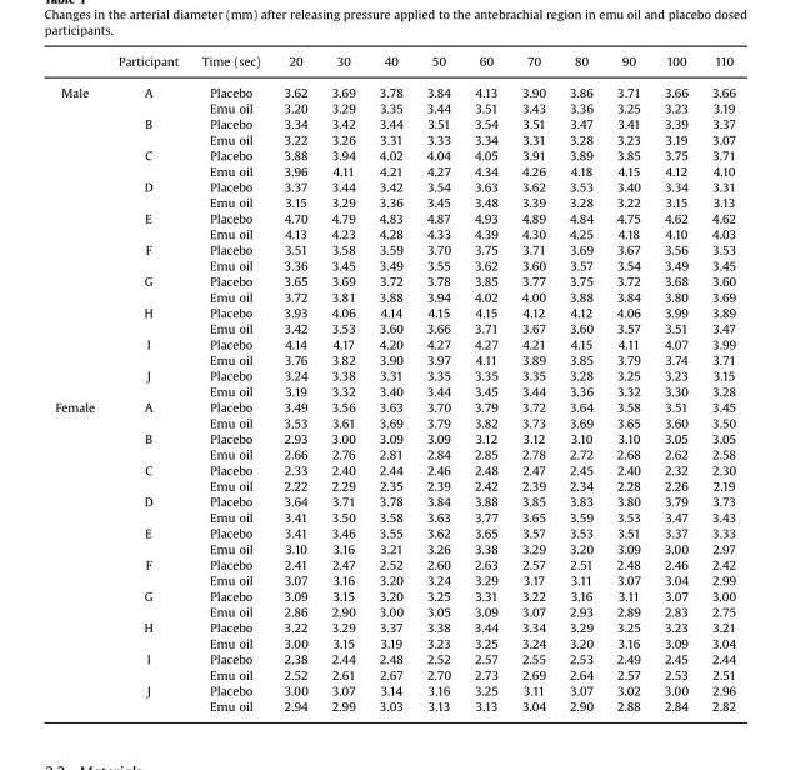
<table><thead><tr><td></td><td>Participant</td><td>Time (sec)</td><td>20</td><td>30</td><td>40</td><td>50</td><td>60</td><td>70</td><td>80</td><td>90</td><td>100</td><td>110</td></tr></thead><tbody><tr><td rowspan="20">Male</td><td rowspan="2">A</td><td>Placebo</td><td>3.62</td><td>3.69</td><td>3.78</td><td>3.84</td><td>4.13</td><td>3.90</td><td>3.86</td><td>3.71</td><td>3.66</td><td>3.66</td></tr><tr><td>Emu oil</td><td>3.20</td><td>3.29</td><td>3.35</td><td>3.44</td><td>3.51</td><td>3.43</td><td>3.36</td><td>3.25</td><td>3.23</td><td>3.19</td></tr><tr><td rowspan="2">B</td><td>Placebo</td><td>3.34</td><td>3.42</td><td>3.44</td><td>3.51</td><td>3.54</td><td>3.51</td><td>3.47</td><td>3.41</td><td>3.39</td><td>3.37</td></tr><tr><td>Emu oil</td><td>3.22</td><td>3.26</td><td>3.31</td><td>3.33</td><td>3.34</td><td>3.31</td><td>3.28</td><td>3.23</td><td>3.19</td><td>3.07</td></tr><tr><td rowspan="2">C</td><td>Placebo</td><td>3.88</td><td>3.94</td><td>4.02</td><td>4.04</td><td>4.05</td><td>3.91</td><td>3.89</td><td>3.85</td><td>3.75</td><td>3.71</td></tr><tr><td>Emu oil</td><td>3.96</td><td>4.11</td><td>4.21</td><td>4.27</td><td>4.34</td><td>4.26</td><td>4.18</td><td>4.15</td><td>4.12</td><td>4.10</td></tr><tr><td rowspan="2">D</td><td>Placebo</td><td>3.37</td><td>3.44</td><td>3.42</td><td>3.54</td><td>3.63</td><td>3.62</td><td>3.53</td><td>3.40</td><td>3.34</td><td>3.31</td></tr><tr><td>Emu oil</td><td>3.15</td><td>3.29</td><td>3.36</td><td>3.45</td><td>3.48</td><td>3.39</td><td>3.28</td><td>3.22</td><td>3.15</td><td>3.13</td></tr><tr><td rowspan="2">E</td><td>Placebo</td><td>4.70</td><td>4.79</td><td>4.83</td><td>4.87</td><td>4.93</td><td>4.89</td><td>4.84</td><td>4.75</td><td>4.62</td><td>4.62</td></tr><tr><td>Emu oil</td><td>4.13</td><td>4.23</td><td>4.28</td><td>4.33</td><td>4.39</td><td>4.30</td><td>4.25</td><td>4.18</td><td>4.10</td><td>4.03</td></tr><tr><td rowspan="2">F</td><td>Placebo</td><td>3.51</td><td>3.58</td><td>3.59</td><td>3.70</td><td>3.75</td><td>3.71</td><td>3.69</td><td>3.67</td><td>3.56</td><td>3.53</td></tr><tr><td>Emu oil</td><td>3.36</td><td>3.45</td><td>3.49</td><td>3.55</td><td>3.62</td><td>3.60</td><td>3.57</td><td>3.54</td><td>3.49</td><td>3.45</td></tr><tr><td rowspan="2">G</td><td>Placebo</td><td>3.65</td><td>3.69</td><td>3.72</td><td>3.78</td><td>3.85</td><td>3.77</td><td>3.75</td><td>3.72</td><td>3.68</td><td>3.60</td></tr><tr><td>Emu oil</td><td>3.72</td><td>3.81</td><td>3.88</td><td>3.94</td><td>4.02</td><td>4.00</td><td>3.88</td><td>3.84</td><td>3.80</td><td>3.69</td></tr><tr><td rowspan="2">H</td><td>Placebo</td><td>3.93</td><td>4.06</td><td>4.14</td><td>4.15</td><td>4.15</td><td>4.12</td><td>4.12</td><td>4.06</td><td>3.99</td><td>3.89</td></tr><tr><td>Emu oil</td><td>3.42</td><td>3.53</td><td>3.60</td><td>3.66</td><td>3.71</td><td>3.67</td><td>3.60</td><td>3.57</td><td>3.51</td><td>3.47</td></tr><tr><td rowspan="2">I</td><td>Placebo</td><td>4.14</td><td>4.17</td><td>4.20</td><td>4.27</td><td>4.27</td><td>4.21</td><td>4.15</td><td>4.11</td><td>4.07</td><td>3.99</td></tr><tr><td>Emu oil</td><td>3.76</td><td>3.82</td><td>3.90</td><td>3.97</td><td>4.11</td><td>3.89</td><td>3.85</td><td>3.79</td><td>3.74</td><td>3.71</td></tr><tr><td rowspan="2">J</td><td>Placebo</td><td>3.24</td><td>3.38</td><td>3.31</td><td>3.35</td><td>3.35</td><td>3.35</td><td>3.28</td><td>3.25</td><td>3.23</td><td>3.15</td></tr><tr><td>Emu oil</td><td>3.19</td><td>3.32</td><td>3.40</td><td>3.44</td><td>3.45</td><td>3.44</td><td>3.36</td><td>3.32</td><td>3.30</td><td>3.28</td></tr><tr><td rowspan="20">Female</td><td rowspan="2">A</td><td>Placebo</td><td>3.49</td><td>3.56</td><td>3.63</td><td>3.70</td><td>3.79</td><td>3.72</td><td>3.64</td><td>3.58</td><td>3.51</td><td>3.45</td></tr><tr><td>Emu oil</td><td>3.53</td><td>3.61</td><td>3.69</td><td>3.79</td><td>3.82</td><td>3.73</td><td>3.69</td><td>3.65</td><td>3.60</td><td>3.50</td></tr><tr><td rowspan="2">B</td><td>Placebo</td><td>2.93</td><td>3.00</td><td>3.09</td><td>3.09</td><td>3.12</td><td>3.12</td><td>3.10</td><td>3.10</td><td>3.05</td><td>3.05</td></tr><tr><td>Emu oil</td><td>2.66</td><td>2.76</td><td>2.81</td><td>2.84</td><td>2.85</td><td>2.78</td><td>2.72</td><td>2.68</td><td>2.62</td><td>2.58</td></tr><tr><td rowspan="2">C</td><td>Placebo</td><td>2.33</td><td>2.40</td><td>2.44</td><td>2.46</td><td>2.48</td><td>2.47</td><td>2.45</td><td>2.40</td><td>2.32</td><td>2.30</td></tr><tr><td>Emu oil</td><td>2.22</td><td>2.29</td><td>2.35</td><td>2.39</td><td>2.42</td><td>2.39</td><td>2.34</td><td>2.28</td><td>2.26</td><td>2.19</td></tr><tr><td rowspan="2">D</td><td>Placebo</td><td>3.64</td><td>3.71</td><td>3.78</td><td>3.84</td><td>3.88</td><td>3.85</td><td>3.83</td><td>3.80</td><td>3.79</td><td>3.73</td></tr><tr><td>Emu oil</td><td>3.41</td><td>3.50</td><td>3.58</td><td>3.63</td><td>3.77</td><td>3.65</td><td>3.59</td><td>3.53</td><td>3.47</td><td>3.43</td></tr><tr><td rowspan="2">E</td><td>Placebo</td><td>3.41</td><td>3.46</td><td>3.55</td><td>3.62</td><td>3.65</td><td>3.57</td><td>3.53</td><td>3.51</td><td>3.37</td><td>3.33</td></tr><tr><td>Emu oil</td><td>3.10</td><td>3.16</td><td>3.21</td><td>3.26</td><td>3.38</td><td>3.29</td><td>3.20</td><td>3.09</td><td>3.00</td><td>2.97</td></tr><tr><td rowspan="2">F</td><td>Placebo</td><td>2.41</td><td>2.47</td><td>2.52</td><td>2.60</td><td>2.63</td><td>2.57</td><td>2.51</td><td>2.48</td><td>2.46</td><td>2.42</td></tr><tr><td>Emu oil</td><td>3.07</td><td>3.16</td><td>3.20</td><td>3.24</td><td>3.29</td><td>3.17</td><td>3.11</td><td>3.07</td><td>3.04</td><td>2.99</td></tr><tr><td rowspan="2">G</td><td>Placebo</td><td>3.09</td><td>3.15</td><td>3.20</td><td>3.25</td><td>3.31</td><td>3.22</td><td>3.16</td><td>3.11</td><td>3.07</td><td>3.00</td></tr><tr><td>Emu oil</td><td>2.86</td><td>2.90</td><td>3.00</td><td>3.05</td><td>3.09</td><td>3.07</td><td>2.93</td><td>2.89</td><td>2.83</td><td>2.75</td></tr><tr><td rowspan="2">H</td><td>Placebo</td><td>3.22</td><td>3.29</td><td>3.37</td><td>3.38</td><td>3.44</td><td>3.34</td><td>3.29</td><td>3.25</td><td>3.23</td><td>3.21</td></tr><tr><td>Emu oil</td><td>3.00</td><td>3.15</td><td>3.19</td><td>3.23</td><td>3.25</td><td>3.24</td><td>3.20</td><td>3.16</td><td>3.09</td><td>3.04</td></tr><tr><td rowspan="2">I</td><td>Placebo</td><td>2.38</td><td>2.44</td><td>2.48</td><td>2.52</td><td>2.57</td><td>2.55</td><td>2.53</td><td>2.49</td><td>2.45</td><td>2.44</td></tr><tr><td>Emu oil</td><td>2.52</td><td>2.61</td><td>2.67</td><td>2.70</td><td>2.73</td><td>2.69</td><td>2.64</td><td>2.57</td><td>2.53</td><td>2.51</td></tr><tr><td rowspan="2">J</td><td>Placebo</td><td>3.00</td><td>3.07</td><td>3.14</td><td>3.16</td><td>3.25</td><td>3.11</td><td>3.07</td><td>3.02</td><td>3.00</td><td>2.96</td></tr><tr><td>Emu oil</td><td>2.94</td><td>2.99</td><td>3.03</td><td>3.13</td><td>3.13</td><td>3.04</td><td>2.90</td><td>2.88</td><td>2.84</td><td>2.82</td></tr></tbody></table>